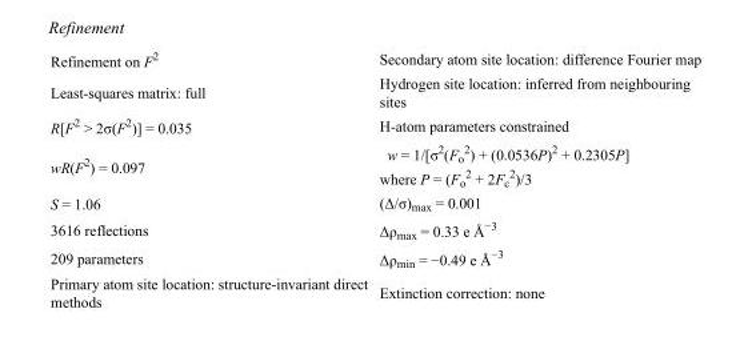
<table><tbody><tr><td>Refinement on F<sup>2</sup></td><td>Secondary atom site location: difference Fourier map</td></tr><tr><td>Least-squares matrix: full</td><td>Hydrogen site location: inferred from neighbouring sites</td></tr><tr><td>R[F<sup>2</sup> &gt; 2σ(F<sup>2</sup>)] = 0.035</td><td>H-atom parameters constrained</td></tr><tr><td>wR(F<sup>2</sup>) = 0.097</td><td>w = 1/[σ<sup>2</sup>(F<sub>o</sub> <sup>2</sup>) + (0.0536P)<sup>2</sup> + 0.2305P] where P = (F<sub>o</sub> <sup>2</sup> + 2F<sub>c</sub> <sup>2</sup>)/3</td></tr><tr><td>S = 1.06</td><td>(Δ/σ)<sub>max</sub> = 0.001</td></tr><tr><td>3616 reflections</td><td>Δρ<sub>max</sub> = 0.33 e Å<sup>−3</sup></td></tr><tr><td>209 parameters</td><td>Δρ<sub>min</sub> = −0.49 e Å<sup>−3</sup></td></tr><tr><td>Primary atom site location: structure-invariant direct methods</td><td>Extinction correction: none</td></tr></tbody></table>